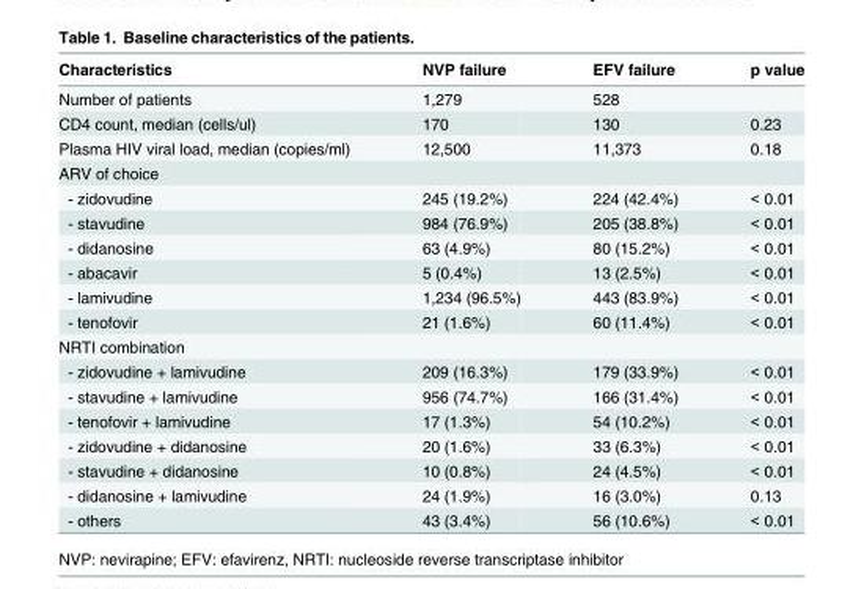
<table><thead><tr><td>Characteristics</td><td>NVP failure</td><td>EFV failure</td><td>p value</td></tr></thead><tbody><tr><td>Number of patients</td><td>1,279</td><td>528</td><td></td></tr><tr><td>CD4 count, median (cells/ul)</td><td>170</td><td>130</td><td>0.23</td></tr><tr><td>Plasma HIV viral load, median (copies/ml)</td><td>12,500</td><td>11,373</td><td>0.18</td></tr><tr><td colspan="4">ARV of choice</td></tr><tr><td>- zidovudine</td><td>245 (19.2%)</td><td>224 (42.4%)</td><td>&lt; 0.01</td></tr><tr><td>- stavudine</td><td>984 (76.9%)</td><td>205 (38.8%)</td><td>&lt; 0.01</td></tr><tr><td>- didanosine</td><td>63 (4.9%)</td><td>80 (15.2%)</td><td>&lt; 0.01</td></tr><tr><td>- abacavir</td><td>5 (0.4%)</td><td>13 (2.5%)</td><td>&lt; 0.01</td></tr><tr><td>- lamivudine</td><td>1,234 (96.5%)</td><td>443 (83.9%)</td><td>&lt; 0.01</td></tr><tr><td>- tenofovir</td><td>21 (1.6%)</td><td>60 (11.4%)</td><td>&lt; 0.01</td></tr><tr><td colspan="4">NRTI combination</td></tr><tr><td>- zidovudine + lamivudine</td><td>209 (16.3%)</td><td>179 (33.9%)</td><td>&lt; 0.01</td></tr><tr><td>- stavudine + lamivudine</td><td>956 (74.7%)</td><td>166 (31.4%)</td><td>&lt; 0.01</td></tr><tr><td>- tenofovir + lamivudine</td><td>17 (1.3%)</td><td>54 (10.2%)</td><td>&lt; 0.01</td></tr><tr><td>- zidovudine + didanosine</td><td>20 (1.6%)</td><td>33 (6.3%)</td><td>&lt; 0.01</td></tr><tr><td>- stavudine + didanosine</td><td>10 (0.8%)</td><td>24 (4.5%)</td><td>&lt; 0.01</td></tr><tr><td>- didanosine + lamivudine</td><td>24 (1.9%)</td><td>16 (3.0%)</td><td>0.13</td></tr><tr><td>- others</td><td>43 (3.4%)</td><td>56 (10.6%)</td><td>&lt; 0.01</td></tr></tbody></table>